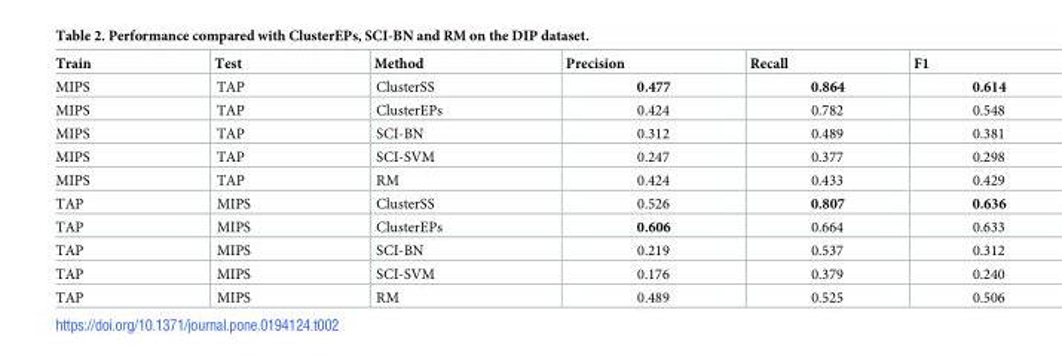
<table><thead><tr><td>Train</td><td>Test</td><td>Method</td><td>Precision</td><td>Recall</td><td>F1</td></tr></thead><tbody><tr><td>MIPS</td><td>TAP</td><td>ClusterSS</td><td>0.477</td><td>0.864</td><td>0.614</td></tr><tr><td>MIPS</td><td>TAP</td><td>ClusterEPs</td><td>0.424</td><td>0.782</td><td>0.548</td></tr><tr><td>MIPS</td><td>TAP</td><td>SCI-BN</td><td>0.312</td><td>0.489</td><td>0.381</td></tr><tr><td>MIPS</td><td>TAP</td><td>SCI-SVM</td><td>0.247</td><td>0.377</td><td>0.298</td></tr><tr><td>MIPS</td><td>TAP</td><td>RM</td><td>0.424</td><td>0.433</td><td>0.429</td></tr><tr><td>TAP</td><td>MIPS</td><td>ClusterSS</td><td>0.526</td><td>0.807</td><td>0.636</td></tr><tr><td>TAP</td><td>MIPS</td><td>ClusterEPs</td><td>0.606</td><td>0.664</td><td>0.633</td></tr><tr><td>TAP</td><td>MIPS</td><td>SCI-BN</td><td>0.219</td><td>0.537</td><td>0.312</td></tr><tr><td>TAP</td><td>MIPS</td><td>SCI-SVM</td><td>0.176</td><td>0.379</td><td>0.240</td></tr><tr><td>TAP</td><td>MIPS</td><td>RM</td><td>0.489</td><td>0.525</td><td>0.506</td></tr></tbody></table>